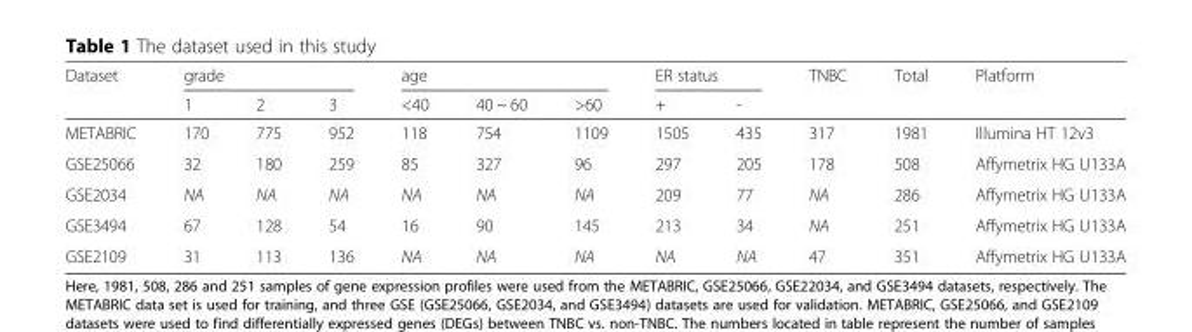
<table><thead><tr><td rowspan="2">Dataset</td><td colspan="3">grade</td><td colspan="3">age</td><td colspan="2">ER status</td><td rowspan="2">TNBC</td><td rowspan="2">Total</td><td rowspan="2">Platform</td></tr><tr><td>1</td><td>2</td><td>3</td><td>&lt;40</td><td>40 ~ 60</td><td>&gt;60</td><td>+</td><td>-</td></tr></thead><tbody><tr><td>METABRIC</td><td>170</td><td>775</td><td>952</td><td>118</td><td>754</td><td>1109</td><td>1505</td><td>435</td><td>317</td><td>1981</td><td>Illumina HT 12v3</td></tr><tr><td>GSE25066</td><td>32</td><td>180</td><td>259</td><td>85</td><td>327</td><td>96</td><td>297</td><td>205</td><td>178</td><td>508</td><td>Affymetrix HG U133A</td></tr><tr><td>GSE2034</td><td>NA</td><td>NA</td><td>NA</td><td>NA</td><td>NA</td><td>NA</td><td>209</td><td>77</td><td>NA</td><td>286</td><td>Affymetrix HG U133A</td></tr><tr><td>GSE3494</td><td>67</td><td>128</td><td>54</td><td>16</td><td>90</td><td>145</td><td>213</td><td>34</td><td>NA</td><td>251</td><td>Affymetrix HG U133A</td></tr><tr><td>GSE2109</td><td>31</td><td>113</td><td>136</td><td>NA</td><td>NA</td><td>NA</td><td>NA</td><td>NA</td><td>47</td><td>351</td><td>Affymetrix HG U133A</td></tr></tbody></table>